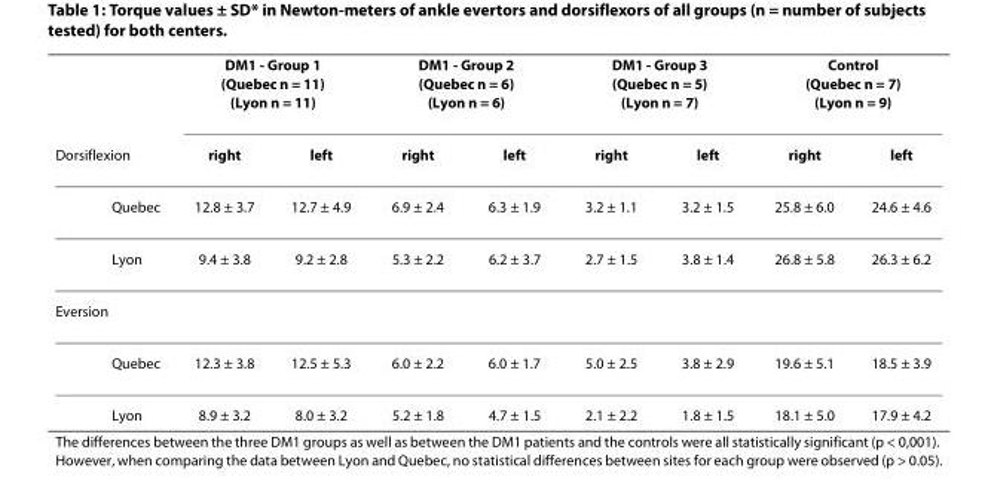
<table><thead><tr><td rowspan="2">Dorsiflexion</td><td colspan="2">DM1 - Group 1 (Quebec n = 11) (Lyon n = 11)</td><td colspan="2">DM1 - Group 2 (Quebec n = 6) (Lyon n = 6)</td><td colspan="2">DM1 - Group 3 (Quebec n = 5) (Lyon n = 7)</td><td colspan="2">Control (Quebec n = 7) (Lyon n = 9)</td></tr><tr><td>right</td><td>left</td><td>right</td><td>left</td><td>right</td><td>left</td><td>right</td><td>left</td></tr></thead><tbody><tr><td>Quebec</td><td>12.8 ± 3.7</td><td>12.7 ± 4.9</td><td>6.9 ± 2.4</td><td>6.3 ± 1.9</td><td>3.2 ± 1.1</td><td>3.2 ± 1.5</td><td>25.8 ± 6.0</td><td>24.6 ± 4.6</td></tr><tr><td>Lyon</td><td>9.4 ± 3.8</td><td>9.2 ± 2.8</td><td>5.3 ± 2.2</td><td>6.2 ± 3.7</td><td>2.7 ± 1.5</td><td>3.8 ± 1.4</td><td>26.8 ± 5.8</td><td>26.3 ± 6.2</td></tr><tr><td colspan="9">Eversion</td></tr><tr><td>Quebec</td><td>12.3 ± 3.8</td><td>12.5 ± 5.3</td><td>6.0 ± 2.2</td><td>6.0 ± 1.7</td><td>5.0 ± 2.5</td><td>3.8 ± 2.9</td><td>19.6 ± 5.1</td><td>18.5 ± 3.9</td></tr><tr><td>Lyon</td><td>8.9 ± 3.2</td><td>8.0 ± 3.2</td><td>5.2 ± 1.8</td><td>4.7 ± 1.5</td><td>2.1 ± 2.2</td><td>1.8 ± 1.5</td><td>18.1 ± 5.0</td><td>17.9 ± 4.2</td></tr></tbody></table>